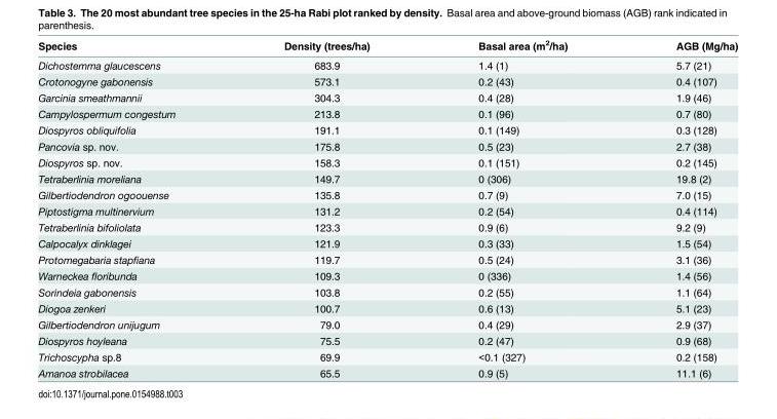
<table><thead><tr><td>Species</td><td>Density (trees/ha)</td><td>Basal area (m<sup>2</sup>/ha)</td><td>AGB (Mg/ha)</td></tr></thead><tbody><tr><td>Dichostemma glaucescens</td><td>683.9</td><td>1.4 (1)</td><td>5.7 (21)</td></tr><tr><td>Crotonogyne gabonensis</td><td>573.1</td><td>0.2 (43)</td><td>0.4 (107)</td></tr><tr><td>Garcinia smeathmannii</td><td>304.3</td><td>0.4 (28)</td><td>1.9 (46)</td></tr><tr><td>Campylospermum congestum</td><td>213.8</td><td>0.1 (96)</td><td>0.7 (80)</td></tr><tr><td>Diospyros obliquifolia</td><td>191.1</td><td>0.1 (149)</td><td>0.3 (128)</td></tr><tr><td>Pancovia sp. nov.</td><td>175.8</td><td>0.5 (23)</td><td>2.7 (38)</td></tr><tr><td>Diospyros sp. nov.</td><td>158.3</td><td>0.1 (151)</td><td>0.2 (145)</td></tr><tr><td>Tetraberlinia moreliana</td><td>149.7</td><td>0 (306)</td><td>19.8 (2)</td></tr><tr><td>Gilbertiodendron ogoouense</td><td>135.8</td><td>0.7 (9)</td><td>7.0 (15)</td></tr><tr><td>Piptostigma multinervium</td><td>131.2</td><td>0.2 (54)</td><td>0.4 (114)</td></tr><tr><td>Tetraberlinia bifoliolata</td><td>123.3</td><td>0.9 (6)</td><td>9.2 (9)</td></tr><tr><td>Calpocalyx dinklagei</td><td>121.9</td><td>0.3 (33)</td><td>1.5 (54)</td></tr><tr><td>Protomegabaria stapfiana</td><td>119.7</td><td>0.5 (24)</td><td>3.1 (36)</td></tr><tr><td>Warneckea floribunda</td><td>109.3</td><td>0 (336)</td><td>1.4 (56)</td></tr><tr><td>Sorindeia gabonensis</td><td>103.8</td><td>0.2 (55)</td><td>1.1 (64)</td></tr><tr><td>Diogoa zenkeri</td><td>100.7</td><td>0.6 (13)</td><td>5.1 (23)</td></tr><tr><td>Gilbertiodendron unijugum</td><td>79.0</td><td>0.4 (29)</td><td>2.9 (37)</td></tr><tr><td>Diospyros hoyleana</td><td>75.5</td><td>0.2 (47)</td><td>0.9 (68)</td></tr><tr><td>Trichoscypha sp.8</td><td>69.9</td><td>&lt;0.1 (327)</td><td>0.2 (158)</td></tr><tr><td>Amanoa strobilacea</td><td>65.5</td><td>0.9 (5)</td><td>11.1 (6)</td></tr></tbody></table>